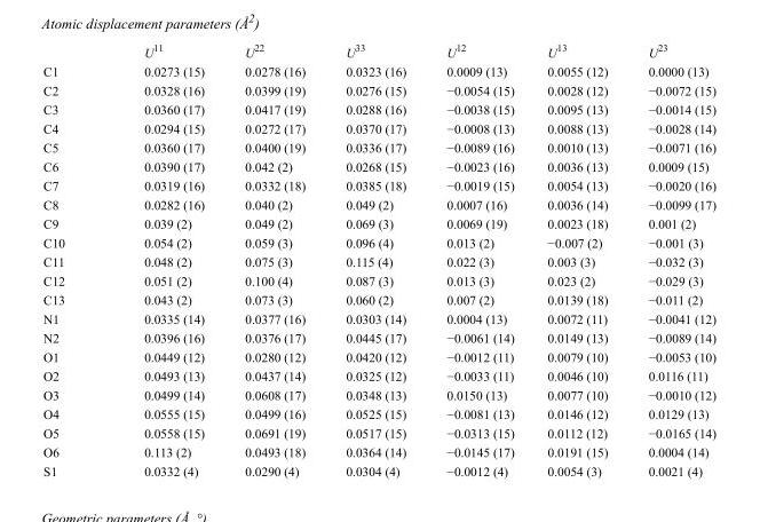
<table><thead><tr><td></td><td>U<sup>11</sup></td><td>U<sup>22</sup></td><td>U<sup>33</sup></td><td>U<sup>12</sup></td><td>U<sup>13</sup></td><td>U<sup>23</sup></td></tr></thead><tbody><tr><td>C1</td><td>0.0273 (15)</td><td>0.0278 (16)</td><td>0.0323 (16)</td><td>0.0009 (13)</td><td>0.0055 (12)</td><td>0.0000 (13)</td></tr><tr><td>C2</td><td>0.0328 (16)</td><td>0.0399 (19)</td><td>0.0276 (15)</td><td>−0.0054 (15)</td><td>0.0028 (12)</td><td>−0.0072 (15)</td></tr><tr><td>C3</td><td>0.0360 (17)</td><td>0.0417 (19)</td><td>0.0288 (16)</td><td>−0.0038 (15)</td><td>0.0095 (13)</td><td>−0.0014 (15)</td></tr><tr><td>C4</td><td>0.0294 (15)</td><td>0.0272 (17)</td><td>0.0370 (17)</td><td>−0.0008 (13)</td><td>0.0088 (13)</td><td>−0.0028 (14)</td></tr><tr><td>C5</td><td>0.0360 (17)</td><td>0.0400 (19)</td><td>0.0336 (17)</td><td>−0.0089 (16)</td><td>0.0010 (13)</td><td>−0.0071 (16)</td></tr><tr><td>C6</td><td>0.0390 (17)</td><td>0.042 (2)</td><td>0.0268 (15)</td><td>−0.0023 (16)</td><td>0.0036 (13)</td><td>0.0009 (15)</td></tr><tr><td>C7</td><td>0.0319 (16)</td><td>0.0332 (18)</td><td>0.0385 (18)</td><td>−0.0019 (15)</td><td>0.0054 (13)</td><td>−0.0020 (16)</td></tr><tr><td>C8</td><td>0.0282 (16)</td><td>0.040 (2)</td><td>0.049 (2)</td><td>0.0007 (16)</td><td>0.0036 (14)</td><td>−0.0099 (17)</td></tr><tr><td>C9</td><td>0.039 (2)</td><td>0.049 (2)</td><td>0.069 (3)</td><td>0.0069 (19)</td><td>0.0023 (18)</td><td>0.001 (2)</td></tr><tr><td>C10</td><td>0.054 (2)</td><td>0.059 (3)</td><td>0.096 (4)</td><td>0.013 (2)</td><td>−0.007 (2)</td><td>−0.001 (3)</td></tr><tr><td>C11</td><td>0.048 (2)</td><td>0.075 (3)</td><td>0.115 (4)</td><td>0.022 (3)</td><td>0.003 (3)</td><td>−0.032 (3)</td></tr><tr><td>C12</td><td>0.051 (2)</td><td>0.100 (4)</td><td>0.087 (3)</td><td>0.013 (3)</td><td>0.023 (2)</td><td>−0.029 (3)</td></tr><tr><td>C13</td><td>0.043 (2)</td><td>0.073 (3)</td><td>0.060 (2)</td><td>0.007 (2)</td><td>0.0139 (18)</td><td>−0.011 (2)</td></tr><tr><td>N1</td><td>0.0335 (14)</td><td>0.0377 (16)</td><td>0.0303 (14)</td><td>0.0004 (13)</td><td>0.0072 (11)</td><td>−0.0041 (12)</td></tr><tr><td>N2</td><td>0.0396 (16)</td><td>0.0376 (17)</td><td>0.0445 (17)</td><td>−0.0061 (14)</td><td>0.0149 (13)</td><td>−0.0089 (14)</td></tr><tr><td>O1</td><td>0.0449 (12)</td><td>0.0280 (12)</td><td>0.0420 (12)</td><td>−0.0012 (11)</td><td>0.0079 (10)</td><td>−0.0053 (10)</td></tr><tr><td>O2</td><td>0.0493 (13)</td><td>0.0437 (14)</td><td>0.0325 (12)</td><td>−0.0033 (11)</td><td>0.0046 (10)</td><td>0.0116 (11)</td></tr><tr><td>O3</td><td>0.0499 (14)</td><td>0.0608 (17)</td><td>0.0348 (13)</td><td>0.0150 (13)</td><td>0.0077 (10)</td><td>−0.0010 (12)</td></tr><tr><td>O4</td><td>0.0555 (15)</td><td>0.0499 (16)</td><td>0.0525 (15)</td><td>−0.0081 (13)</td><td>0.0146 (12)</td><td>0.0129 (13)</td></tr><tr><td>O5</td><td>0.0558 (15)</td><td>0.0691 (19)</td><td>0.0517 (15)</td><td>−0.0313 (15)</td><td>0.0112 (12)</td><td>−0.0165 (14)</td></tr><tr><td>O6</td><td>0.113 (2)</td><td>0.0493 (18)</td><td>0.0364 (14)</td><td>−0.0145 (17)</td><td>0.0191 (15)</td><td>0.0004 (14)</td></tr><tr><td>S1</td><td>0.0332 (4)</td><td>0.0290 (4)</td><td>0.0304 (4)</td><td>−0.0012 (4)</td><td>0.0054 (3)</td><td>0.0021 (4)</td></tr></tbody></table>